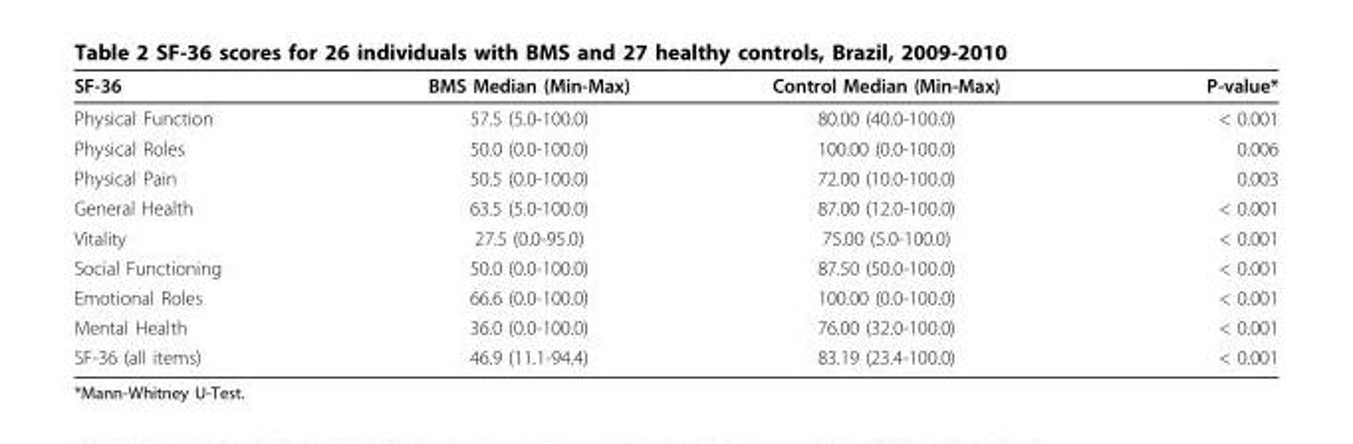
<table><thead><tr><td>SF-36</td><td>BMS Median (Min-Max)</td><td>Control Median (Min-Max)</td><td>P-value*</td></tr></thead><tbody><tr><td>Physical Function</td><td>57.5 (5.0-100.0)</td><td>80.00 (40.0-100.0)</td><td>&lt; 0.001</td></tr><tr><td>Physical Roles</td><td>50.0 (0.0-100.0)</td><td>100.00 (0.0-100.0)</td><td>0.006</td></tr><tr><td>Physical Pain</td><td>50.5 (0.0-100.0)</td><td>72.00 (10.0-100.0)</td><td>0.003</td></tr><tr><td>General Health</td><td>63.5 (5.0-100.0)</td><td>87.00 (12.0-100.0)</td><td>&lt; 0.001</td></tr><tr><td>Vitality</td><td>27.5 (0.0-95.0)</td><td>75.00 (5.0-100.0)</td><td>&lt; 0.001</td></tr><tr><td>Social Functioning</td><td>50.0 (0.0-100.0)</td><td>87.50 (50.0-100.0)</td><td>&lt; 0.001</td></tr><tr><td>Emotional Roles</td><td>66.6 (0.0-100.0)</td><td>100.00 (0.0-100.0)</td><td>&lt; 0.001</td></tr><tr><td>Mental Health</td><td>36.0 (0.0-100.0)</td><td>76.00 (32.0-100.0)</td><td>&lt; 0.001</td></tr><tr><td>SF-36 (all items)</td><td>46.9 (11.1-94.4)</td><td>83.19 (23.4-100.0)</td><td>&lt; 0.001</td></tr></tbody></table>